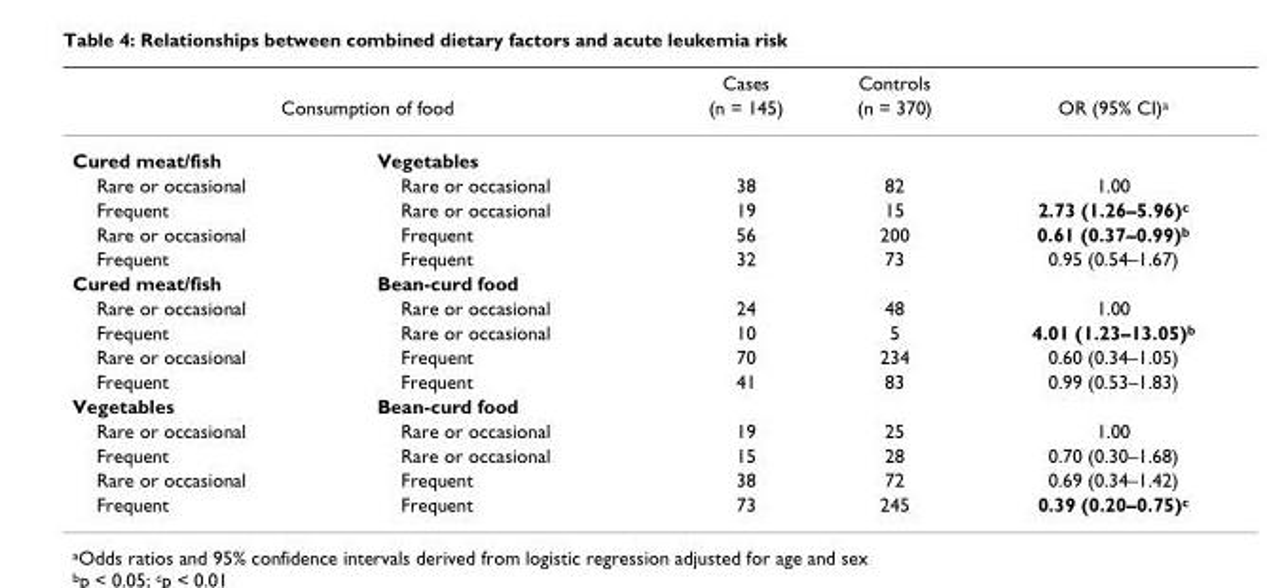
<table><thead><tr><td></td><td></td><td rowspan="2">Cases (n = 145)</td><td rowspan="2">Controls (n = 370)</td><td rowspan="2">OR (95% CI)<sup>a</sup></td></tr><tr><td colspan="2">Consumption of food</td></tr></thead><tbody><tr><td>Cured meat/fish</td><td>Vegetables</td><td></td><td></td><td></td></tr><tr><td>Rare or occasional</td><td>Rare or occasional</td><td>38</td><td>82</td><td>1.00</td></tr><tr><td>Frequent</td><td>Rare or occasional</td><td>19</td><td>15</td><td>2.73 (1.26–5.96)<sup>c</sup></td></tr><tr><td>Rare or occasional</td><td>Frequent</td><td>56</td><td>200</td><td>0.61 (0.37–0.99)<sup>b</sup></td></tr><tr><td>Frequent</td><td>Frequent</td><td>32</td><td>73</td><td>0.95 (0.54–1.67)</td></tr><tr><td>Cured meat/fish</td><td>Bean-curd food</td><td></td><td></td><td></td></tr><tr><td>Rare or occasional</td><td>Rare or occasional</td><td>24</td><td>48</td><td>1.00</td></tr><tr><td>Frequent</td><td>Rare or occasional</td><td>10</td><td>5</td><td>4.01 (1.23–13.05)<sup>b</sup></td></tr><tr><td>Rare or occasional</td><td>Frequent</td><td>70</td><td>234</td><td>0.60 (0.34–1.05)</td></tr><tr><td>Frequent</td><td>Frequent</td><td>41</td><td>83</td><td>0.99 (0.53–1.83)</td></tr><tr><td>Vegetables</td><td>Bean-curd food</td><td></td><td></td><td></td></tr><tr><td>Rare or occasional</td><td>Rare or occasional</td><td>19</td><td>25</td><td>1.00</td></tr><tr><td>Frequent</td><td>Rare or occasional</td><td>15</td><td>28</td><td>0.70 (0.30–1.68)</td></tr><tr><td>Rare or occasional</td><td>Frequent</td><td>38</td><td>72</td><td>0.69 (0.34–1.42)</td></tr><tr><td>Frequent</td><td>Frequent</td><td>73</td><td>245</td><td>0.39 (0.20–0.75)<sup>c</sup></td></tr></tbody></table>